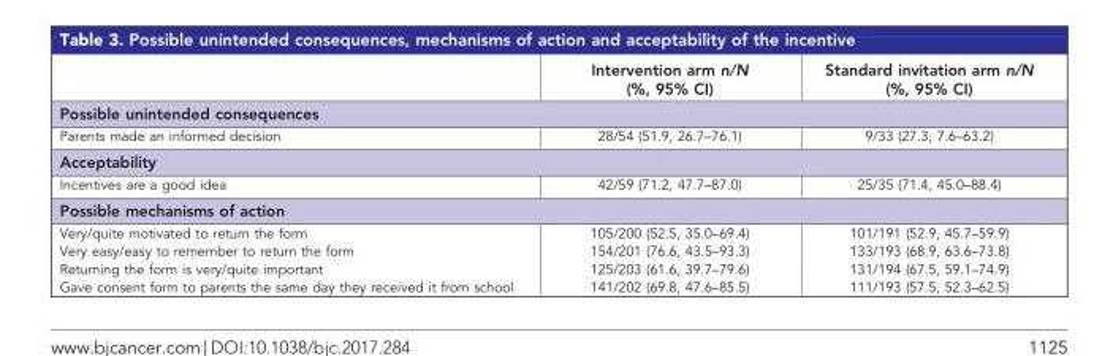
<table><thead><tr><td></td><td>Intervention arm n/N (%, 95% CI)</td><td>Standard invitation arm n/N (%, 95% CI)</td></tr></thead><tbody><tr><td colspan="3">Possible unintended consequences</td></tr><tr><td>Parents made an informed decision</td><td>28/54 (51.9, 26.7–76.1)</td><td>9/33 (27.3, 7.6–63.2)</td></tr><tr><td colspan="3">Acceptability</td></tr><tr><td>Incentives are a good idea</td><td>42/59 (71.2, 47.7–87.0)</td><td>25/35 (71.4, 45.0–88.4)</td></tr><tr><td colspan="3">Possible mechanisms of action</td></tr><tr><td>Very/quite motivated to return the form</td><td>105/200 (52.5, 35.0–69.4)</td><td>101/191 (52.9, 45.7–59.9)</td></tr><tr><td>Very easy/easy to remember to return the form</td><td>154/201 (76.6, 43.5–93.3)</td><td>133/193 (68.9, 63.6–73.8)</td></tr><tr><td>Returning the form is very/quite important</td><td>125/203 (61.6, 39.7–79.6)</td><td>131/194 (67.5, 59.1–74.9)</td></tr><tr><td>Gave consent form to parents the same day they received it from school</td><td>141/202 (69.8, 47.6–85.5)</td><td>111/193 (57.5, 52.3–62.5)</td></tr></tbody></table>